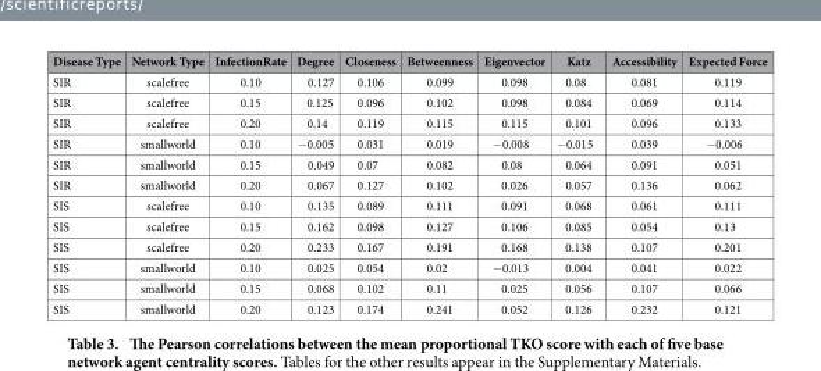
<table><thead><tr><td>Disease Type</td><td>Network Type</td><td>InfectionRate</td><td>Degree</td><td>Closeness</td><td>Betweenness</td><td>Eigenvector</td><td>Katz</td><td>Accessibility</td><td>Expected Force</td></tr></thead><tbody><tr><td>SIR</td><td>scalefree</td><td>0.10</td><td>0.127</td><td>0.106</td><td>0.099</td><td>0.098</td><td>0.08</td><td>0.081</td><td>0.119</td></tr><tr><td>SIR</td><td>scalefree</td><td>0.15</td><td>0.125</td><td>0.096</td><td>0.102</td><td>0.098</td><td>0.084</td><td>0.069</td><td>0.114</td></tr><tr><td>SIR</td><td>scalefree</td><td>0.20</td><td>0.14</td><td>0.119</td><td>0.115</td><td>0.115</td><td>0.101</td><td>0.096</td><td>0.133</td></tr><tr><td>SIR</td><td>smallworld</td><td>0.10</td><td>−0.005</td><td>0.031</td><td>0.019</td><td>−0.008</td><td>−0.015</td><td>0.039</td><td>−0.006</td></tr><tr><td>SIR</td><td>smallworld</td><td>0.15</td><td>0.049</td><td>0.07</td><td>0.082</td><td>0.08</td><td>0.064</td><td>0.091</td><td>0.051</td></tr><tr><td>SIR</td><td>smallworld</td><td>0.20</td><td>0.067</td><td>0.127</td><td>0.102</td><td>0.026</td><td>0.057</td><td>0.136</td><td>0.062</td></tr><tr><td>SIS</td><td>scalefree</td><td>0.10</td><td>0.135</td><td>0.089</td><td>0.111</td><td>0.091</td><td>0.068</td><td>0.061</td><td>0.111</td></tr><tr><td>SIS</td><td>scalefree</td><td>0.15</td><td>0.162</td><td>0.098</td><td>0.127</td><td>0.106</td><td>0.085</td><td>0.054</td><td>0.13</td></tr><tr><td>SIS</td><td>scalefree</td><td>0.20</td><td>0.233</td><td>0.167</td><td>0.191</td><td>0.168</td><td>0.138</td><td>0.107</td><td>0.201</td></tr><tr><td>SIS</td><td>smallworld</td><td>0.10</td><td>0.025</td><td>0.054</td><td>0.02</td><td>−0.013</td><td>0.004</td><td>0.041</td><td>0.022</td></tr><tr><td>SIS</td><td>smallworld</td><td>0.15</td><td>0.068</td><td>0.102</td><td>0.11</td><td>0.025</td><td>0.056</td><td>0.107</td><td>0.066</td></tr><tr><td>SIS</td><td>smallworld</td><td>0.20</td><td>0.123</td><td>0.174</td><td>0.241</td><td>0.052</td><td>0.126</td><td>0.232</td><td>0.121</td></tr></tbody></table>